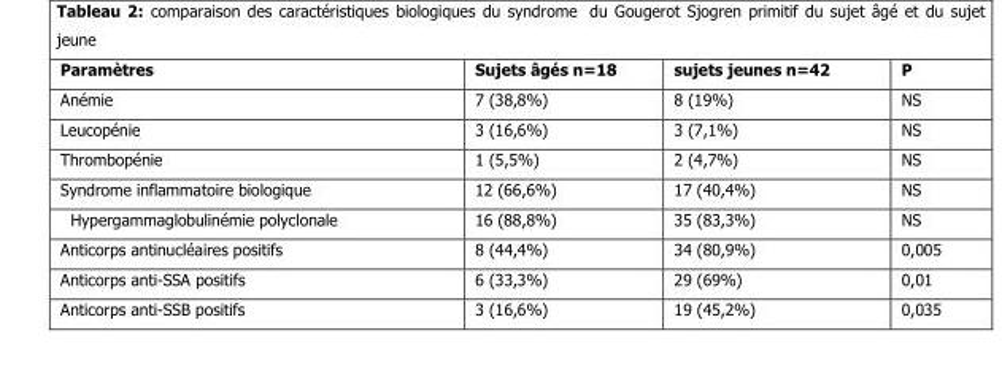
<table><thead><tr><td>Paramètres</td><td>Sujets âgés n=18</td><td>sujets jeunes n=42</td><td>P</td></tr></thead><tbody><tr><td>Anémie</td><td>7 (38,8%)</td><td>8 (19%)</td><td>NS</td></tr><tr><td>Leucopénie</td><td>3 (16,6%)</td><td>3 (7,1%)</td><td>NS</td></tr><tr><td>Thrombopénie</td><td>1 (5,5%)</td><td>2 (4,7%)</td><td>NS</td></tr><tr><td>Syndrome inflammatoire biologique</td><td>12 (66,6%)</td><td>17 (40,4%)</td><td>NS</td></tr><tr><td>Hypergammaglobulinémie polyclonale</td><td>16 (88,8%)</td><td>35 (83,3%)</td><td>NS</td></tr><tr><td>Anticorps antinucléaires positifs</td><td>8 (44,4%)</td><td>34 (80,9%)</td><td>0,005</td></tr><tr><td>Anticorps anti-SSA positifs</td><td>6 (33,3%)</td><td>29 (69%)</td><td>0,01</td></tr><tr><td>Anticorps anti-SSB positifs</td><td>3 (16,6%)</td><td>19 (45,2%)</td><td>0,035</td></tr></tbody></table>